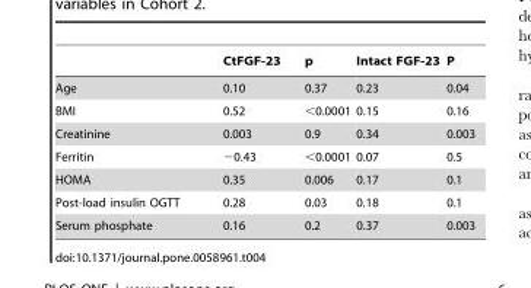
<table><thead><tr><td></td><td>CtFGF-23</td><td>p</td><td>Intact FGF-23</td><td>P</td></tr></thead><tbody><tr><td>Age</td><td>0.10</td><td>0.37</td><td>0.23</td><td>0.04</td></tr><tr><td>BMI</td><td>0.52</td><td>&lt;0.0001</td><td>0.15</td><td>0.16</td></tr><tr><td>Creatinine</td><td>0.003</td><td>0.9</td><td>0.34</td><td>0.003</td></tr><tr><td>Ferritin</td><td>−0.43</td><td>&lt;0.0001</td><td>0.07</td><td>0.5</td></tr><tr><td>HOMA</td><td>0.35</td><td>0.006</td><td>0.17</td><td>0.1</td></tr><tr><td>Post-load insulin OGTT</td><td>0.28</td><td>0.03</td><td>0.18</td><td>0.1</td></tr><tr><td>Serum phosphate</td><td>0.16</td><td>0.2</td><td>0.37</td><td>0.003</td></tr></tbody></table>